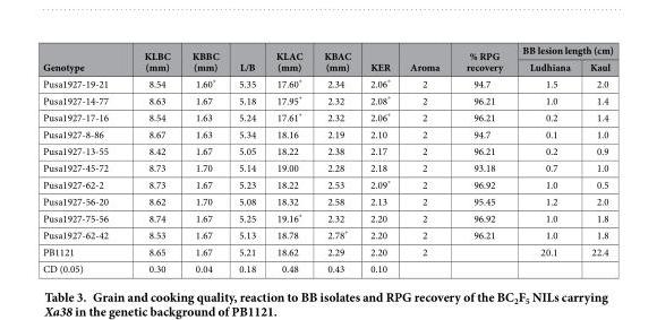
<table><thead><tr><td rowspan="2">Genotype</td><td rowspan="2">KLBC (mm)</td><td rowspan="2">KBBC (mm)</td><td rowspan="2">L/B</td><td rowspan="2">KLAC (mm)</td><td rowspan="2">KBAC (mm)</td><td rowspan="2">KER</td><td rowspan="2">Aroma</td><td rowspan="2">% RPG recovery</td><td colspan="2">BB lesion length (cm)</td></tr><tr><td>Ludhiana</td><td>Kaul</td></tr></thead><tbody><tr><td>Pusa1927-19-21</td><td>8.54</td><td>1.60*</td><td>5.35</td><td>17.60*</td><td>2.34</td><td>2.06*</td><td>2</td><td>94.7</td><td>1.5</td><td>2.0</td></tr><tr><td>Pusa1927-14-77</td><td>8.63</td><td>1.67</td><td>5.18</td><td>17.95*</td><td>2.32</td><td>2.08*</td><td>2</td><td>96.21</td><td>1.0</td><td>1.4</td></tr><tr><td>Pusa1927-17-16</td><td>8.54</td><td>1.63</td><td>5.24</td><td>17.61*</td><td>2.32</td><td>2.06*</td><td>2</td><td>96.21</td><td>0.2</td><td>1.4</td></tr><tr><td>Pusa1927-8-86</td><td>8.67</td><td>1.63</td><td>5.34</td><td>18.16</td><td>2.19</td><td>2.10</td><td>2</td><td>94.7</td><td>0.1</td><td>1.0</td></tr><tr><td>Pusa1927-13-55</td><td>8.42</td><td>1.67</td><td>5.05</td><td>18.22</td><td>2.38</td><td>2.17</td><td>2</td><td>96.21</td><td>0.2</td><td>0.9</td></tr><tr><td>Pusa1927-45-72</td><td>8.73</td><td>1.70</td><td>5.14</td><td>19.00</td><td>2.28</td><td>2.18</td><td>2</td><td>93.18</td><td>0.7</td><td>1.0</td></tr><tr><td>Pusa1927-62-2</td><td>8.73</td><td>1.67</td><td>5.23</td><td>18.22</td><td>2.53</td><td>2.09*</td><td>2</td><td>96.92</td><td>1.0</td><td>0.5</td></tr><tr><td>Pusa1927-56-20</td><td>8.62</td><td>1.70</td><td>5.08</td><td>18.32</td><td>2.58</td><td>2.13</td><td>2</td><td>95.45</td><td>1.2</td><td>2.0</td></tr><tr><td>Pusa1927-75-56</td><td>8.74</td><td>1.67</td><td>5.25</td><td>19.16*</td><td>2.32</td><td>2.20</td><td>2</td><td>96.92</td><td>1.0</td><td>1.8</td></tr><tr><td>Pusa1927-62-42</td><td>8.53</td><td>1.67</td><td>5.13</td><td>18.78</td><td>2.78*</td><td>2.20</td><td>2</td><td>96.21</td><td>1.0</td><td>1.8</td></tr><tr><td>PB1121</td><td>8.65</td><td>1.67</td><td>5.21</td><td>18.62</td><td>2.29</td><td>2.20</td><td>2</td><td></td><td>20.1</td><td>22.4</td></tr><tr><td>CD (0.05)</td><td>0.30</td><td>0.04</td><td>0.18</td><td>0.48</td><td>0.43</td><td>0.10</td><td></td><td></td><td></td><td></td></tr></tbody></table>